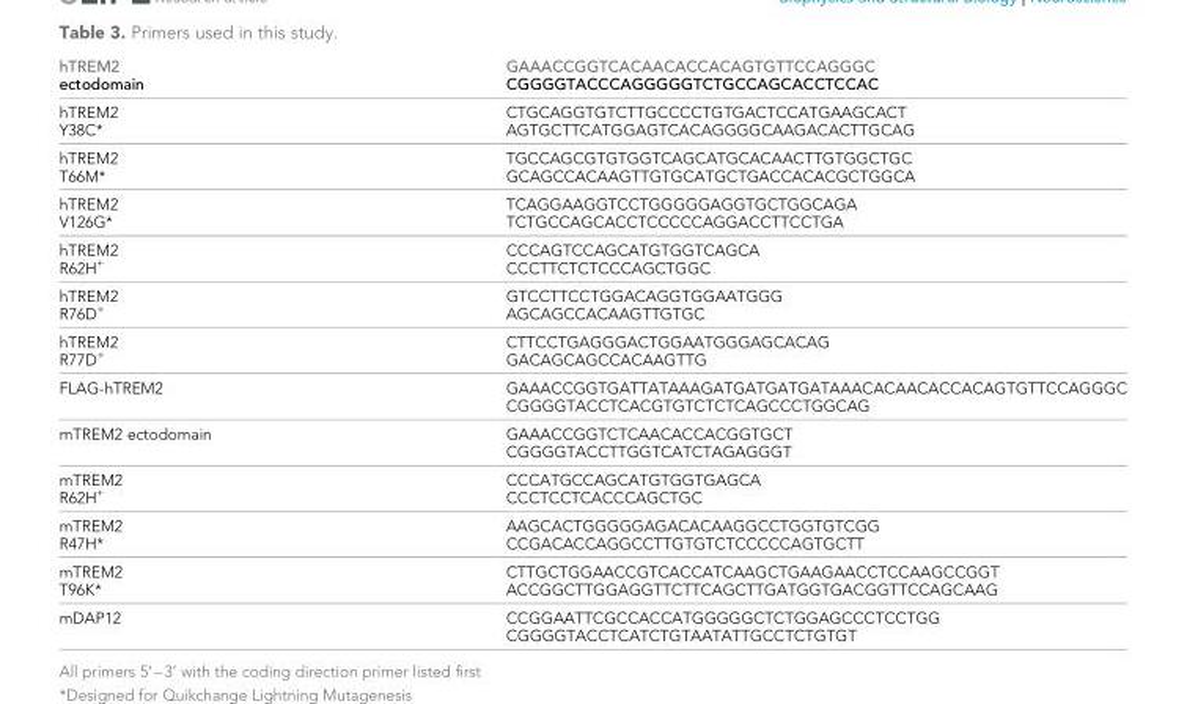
<table><thead><tr><td>hTREM2 ectodomain</td><td>GAAACCGGTCACAACACCACAGTGTTCCAGGGC CGGGGTACCCAGGGGGTCTGCCAGCACCTCCAC</td></tr></thead><tbody><tr><td>hTREM2 Y38C*</td><td>CTGCAGGTGTCTTGCCCCTGTGACTCCATGAAGCACT AGTGCTTCATGGAGTCACAGGGGCAAGACACTTGCAG</td></tr><tr><td>hTREM2 T66M*</td><td>TGCCAGCGTGTGGTCAGCATGCACAACTTGTGGCTGC GCAGCCACAAGTTGTGCATGCTGACCACACGCTGGCA</td></tr><tr><td>hTREM2 V126G*</td><td>TCAGGAAGGTCCTGGGGGAGGTGCTGGCAGA TCTGCCAGCACCTCCCCCAGGACCTTCCTGA</td></tr><tr><td>hTREM2 R62H<sup>+</sup></td><td>CCCAGTCCAGCATGTGGTCAGCA CCCTTCTCTCCCAGCTGGC</td></tr><tr><td>hTREM2 R76D<sup>+</sup></td><td>GTCCTTCCTGGACAGGTGGAATGGG AGCAGCCACAAGTTGTGC</td></tr><tr><td>hTREM2 R77D<sup>+</sup></td><td>CTTCCTGAGGGACTGGAATGGGAGCACAG GACAGCAGCCACAAGTTG</td></tr><tr><td>FLAG-hTREM2</td><td>GAAACCGGTGATTATAAAGATGATGATGATAAACACAACACCACAGTGTTCCAGGGC CGGGGTACCTCACGTGTCTCTCAGCCCTGGCAG</td></tr><tr><td>mTREM2 ectodomain</td><td>GAAACCGGTCTCAACACCACGGTGCT CGGGGTACCTTGGTCATCTAGAGGGT</td></tr><tr><td>mTREM2 R62H<sup>+</sup></td><td>CCCATGCCAGCATGTGGTGAGCA CCCTCCTCACCCAGCTGC</td></tr><tr><td>mTREM2 R47H*</td><td>AAGCACTGGGGGAGACACAAGGCCTGGTGTCGG CCGACACCAGGCCTTGTGTCTCCCCCAGTGCTT</td></tr><tr><td>mTREM2 T96K*</td><td>CTTGCTGGAACCGTCACCATCAAGCTGAAGAACCTCCAAGCCGGT ACCGGCTTGGAGGTTCTTCAGCTTGATGGTGACGGTTCCAGCAAG</td></tr><tr><td>mDAP12</td><td>CCGGAATTCGCCACCATGGGGGCTCTGGAGCCCTCCTGG CGGGGTACCTCATCTGTAATATTGCCTCTGTGT</td></tr></tbody></table>